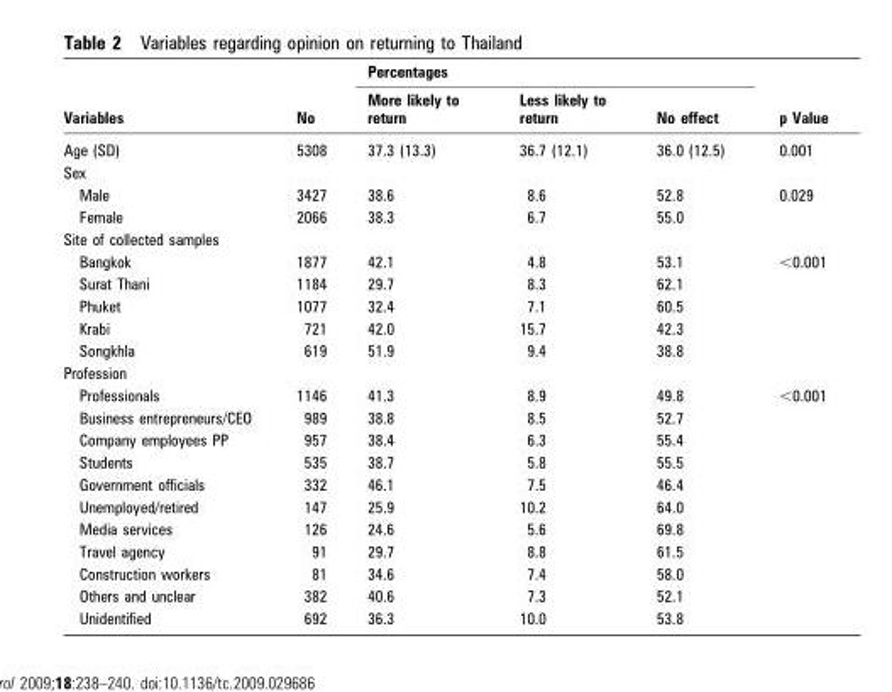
<table><thead><tr><td rowspan="2">Variables</td><td rowspan="2">No</td><td colspan="3">Percentages</td><td rowspan="2">p Value</td></tr><tr><td>More likely to return</td><td>Less likely to return</td><td>No effect</td></tr></thead><tbody><tr><td>Age (SD)</td><td>5308</td><td>37.3 (13.3)</td><td>36.7 (12.1)</td><td>36.0 (12.5)</td><td>0.001</td></tr><tr><td colspan="6">Sex</td></tr><tr><td>Male</td><td>3427</td><td>38.6</td><td>8.6</td><td>52.8</td><td>0.029</td></tr><tr><td>Female</td><td>2066</td><td>38.3</td><td>6.7</td><td>55.0</td><td></td></tr><tr><td colspan="6">Site of collected samples</td></tr><tr><td>Bangkok</td><td>1877</td><td>42.1</td><td>4.8</td><td>53.1</td><td>&lt;0.001</td></tr><tr><td>Surat Thani</td><td>1184</td><td>29.7</td><td>8.3</td><td>62.1</td><td></td></tr><tr><td>Phuket</td><td>1077</td><td>32.4</td><td>7.1</td><td>60.5</td><td></td></tr><tr><td>Krabi</td><td>721</td><td>42.0</td><td>15.7</td><td>42.3</td><td></td></tr><tr><td>Songkhla</td><td>619</td><td>51.9</td><td>9.4</td><td>38.8</td><td></td></tr><tr><td colspan="6">Profession</td></tr><tr><td>Professionals</td><td>1146</td><td>41.3</td><td>8.9</td><td>49.8</td><td>&lt;0.001</td></tr><tr><td>Business entrepreneurs/CEO</td><td>989</td><td>38.8</td><td>8.5</td><td>52.7</td><td></td></tr><tr><td>Company employees PP</td><td>957</td><td>38.4</td><td>6.3</td><td>55.4</td><td></td></tr><tr><td>Students</td><td>535</td><td>38.7</td><td>5.8</td><td>55.5</td><td></td></tr><tr><td>Government officials</td><td>332</td><td>46.1</td><td>7.5</td><td>46.4</td><td></td></tr><tr><td>Unemployed/retired</td><td>147</td><td>25.9</td><td>10.2</td><td>64.0</td><td></td></tr><tr><td>Media services</td><td>126</td><td>24.6</td><td>5.6</td><td>69.8</td><td></td></tr><tr><td>Travel agency</td><td>91</td><td>29.7</td><td>8.8</td><td>61.5</td><td></td></tr><tr><td>Construction workers</td><td>81</td><td>34.6</td><td>7.4</td><td>58.0</td><td></td></tr><tr><td>Others and unclear</td><td>382</td><td>40.6</td><td>7.3</td><td>52.1</td><td></td></tr><tr><td>Unidentified</td><td>692</td><td>36.3</td><td>10.0</td><td>53.8</td><td></td></tr></tbody></table>